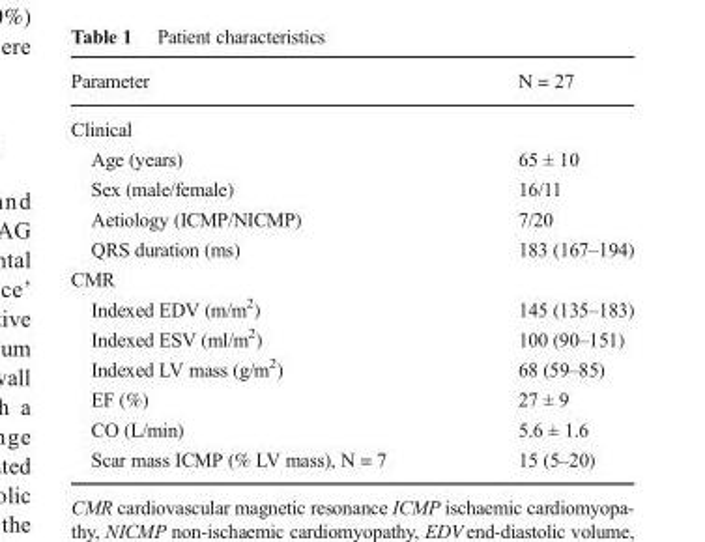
<table><thead><tr><td>Parameter</td><td>N = 27</td></tr></thead><tbody><tr><td colspan="2">Clinical</td></tr><tr><td>Age (years)</td><td>65 ± 10</td></tr><tr><td>Sex (male/female)</td><td>16/11</td></tr><tr><td>Aetiology (ICMP/NICMP)</td><td>7/20</td></tr><tr><td>QRS duration (ms)</td><td>183 (167–194)</td></tr><tr><td colspan="2">CMR</td></tr><tr><td>Indexed EDV (m/m<sup>2</sup>)</td><td>145 (135–183)</td></tr><tr><td>Indexed ESV (ml/m<sup>2</sup>)</td><td>100 (90–151)</td></tr><tr><td>Indexed LV mass (g/m<sup>2</sup>)</td><td>68 (59–85)</td></tr><tr><td>EF (%)</td><td>27 ± 9</td></tr><tr><td>CO (L/min)</td><td>5.6 ± 1.6</td></tr><tr><td>Scar mass ICMP (% LV mass), N = 7</td><td>15 (5–20)</td></tr></tbody></table>